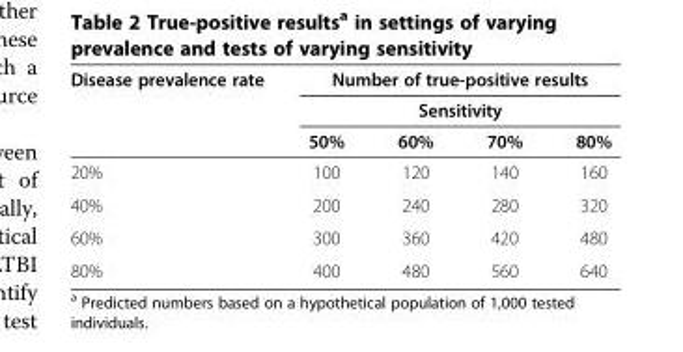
<table><thead><tr><td rowspan="3">Disease prevalence rate</td><td rowspan="2" colspan="4">Number of true-positive results Sensitivity</td></tr><tr></tr><tr><td>50%</td><td>60%</td><td>70%</td><td>80%</td></tr></thead><tbody><tr><td>20%</td><td>100</td><td>120</td><td>140</td><td>160</td></tr><tr><td>40%</td><td>200</td><td>240</td><td>280</td><td>320</td></tr><tr><td>60%</td><td>300</td><td>360</td><td>420</td><td>480</td></tr><tr><td>80%</td><td>400</td><td>480</td><td>560</td><td>640</td></tr></tbody></table>